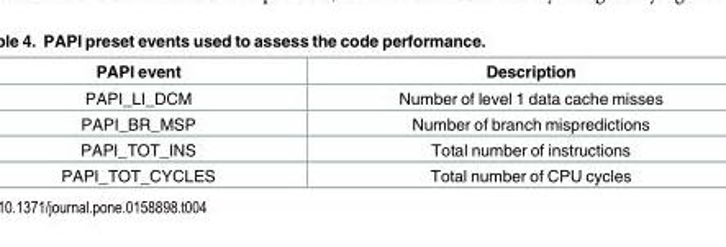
<table><thead><tr><td>PAPI event</td><td>Description</td></tr></thead><tbody><tr><td>PAPI_LI_DCM</td><td>Number of level 1 data cache misses</td></tr><tr><td>PAPI_BR_MSP</td><td>Number of branch mispredictions</td></tr><tr><td>PAPI_TOT_INS</td><td>Total number of instructions</td></tr><tr><td>PAPI_TOT_CYCLES</td><td>Total number of CPU cycles</td></tr></tbody></table>